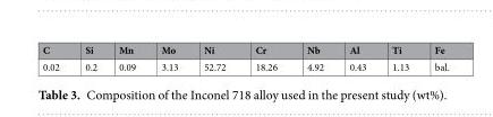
<table><thead><tr><td>C</td><td>Si</td><td>Mn</td><td>Mo</td><td>Ni</td><td>Cr</td><td>Nb</td><td>Al</td><td>Ti</td><td>Fe</td></tr></thead><tbody><tr><td>0.02</td><td>0.2</td><td>0.09</td><td>3.13</td><td>52.72</td><td>18.26</td><td>4.92</td><td>0.43</td><td>1.13</td><td>bal.</td></tr></tbody></table>